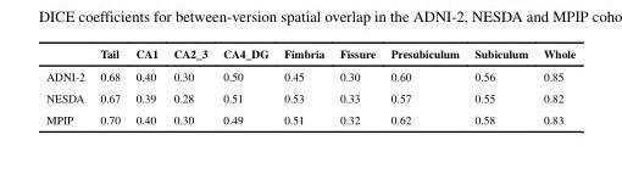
<table><thead><tr><td></td><td>Tail</td><td>CA1</td><td>CA2_3</td><td>CA4_DG</td><td>Fimbria</td><td>Fissure</td><td>Presubiculum</td><td>Subiculum</td><td>Whole</td></tr></thead><tbody><tr><td>ADNI-2</td><td>0.68</td><td>0.40</td><td>0.30</td><td>0.50</td><td>0.45</td><td>0.30</td><td>0.60</td><td>0.56</td><td>0.85</td></tr><tr><td>NESDA</td><td>0.67</td><td>0.39</td><td>0.28</td><td>0.51</td><td>0.53</td><td>0.33</td><td>0.57</td><td>0.55</td><td>0.82</td></tr><tr><td>MPIP</td><td>0.70</td><td>0.40</td><td>0.30</td><td>0.49</td><td>0.51</td><td>0.32</td><td>0.62</td><td>0.58</td><td>0.83</td></tr></tbody></table>